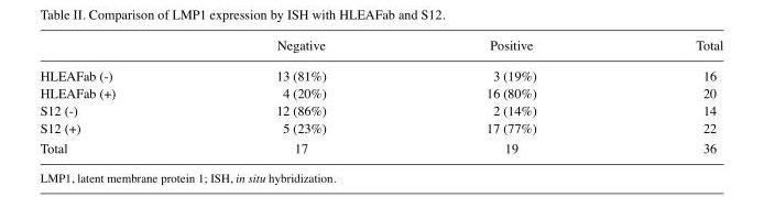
<table><thead><tr><td></td><td>Negative</td><td>Positive</td><td>Total</td></tr></thead><tbody><tr><td>HLEAFab (-)</td><td>13 (81%)</td><td>3 (19%)</td><td>16</td></tr><tr><td>HLEAFab (+)</td><td>4 (20%)</td><td>16 (80%)</td><td>20</td></tr><tr><td>S12 (-)</td><td>12 (86%)</td><td>2 (14%)</td><td>14</td></tr><tr><td>S12 (+)</td><td>5 (23%)</td><td>17 (77%)</td><td>22</td></tr><tr><td>Total</td><td>17</td><td>19</td><td>36</td></tr></tbody></table>